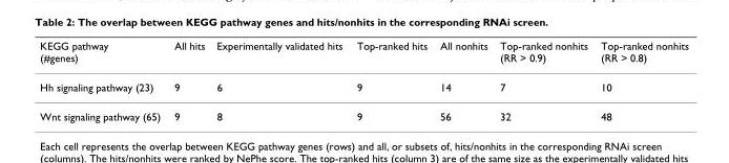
<table><thead><tr><td>KEGG pathway (#genes)</td><td>All hits</td><td>Experimentally validated hits</td><td>Top-ranked hits</td><td>All nonhits</td><td>Top-ranked nonhits (RR &gt; 0.9)</td><td>Top-ranked nonhits (RR &gt; 0.8)</td></tr></thead><tbody><tr><td>Hh signaling pathway (23)</td><td>9</td><td>6</td><td>9</td><td>14</td><td>7</td><td>10</td></tr><tr><td>Wnt signaling pathway (65)</td><td>9</td><td>8</td><td>9</td><td>56</td><td>32</td><td>48</td></tr></tbody></table>